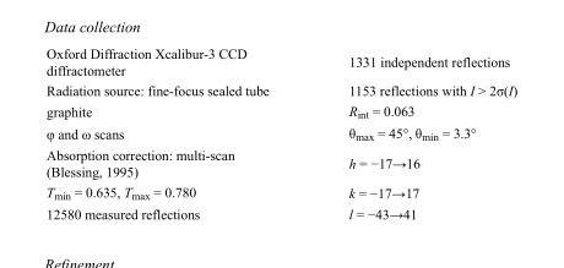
<table><tbody><tr><td>Oxford Diffraction Xcalibur-3 CCD diffractometer</td><td>1331 independent reflections</td></tr><tr><td>Radiation source: fine-focus sealed tube</td><td>1153 reflections with I &gt; 2σ(I)</td></tr><tr><td>graphite</td><td>R<sub>int</sub> = 0.063</td></tr><tr><td>φ and ω scans</td><td>θ<sub>max</sub> = 45°, θ<sub>min</sub> = 3.3°</td></tr><tr><td>Absorption correction: multi-scan (Blessing, 1995)</td><td>h = −17→16</td></tr><tr><td>T<sub>min</sub> = 0.635, T<sub>max</sub> = 0.780</td><td>k = −17→17</td></tr><tr><td>12580 measured reflections</td><td>l = −43→41</td></tr></tbody></table>